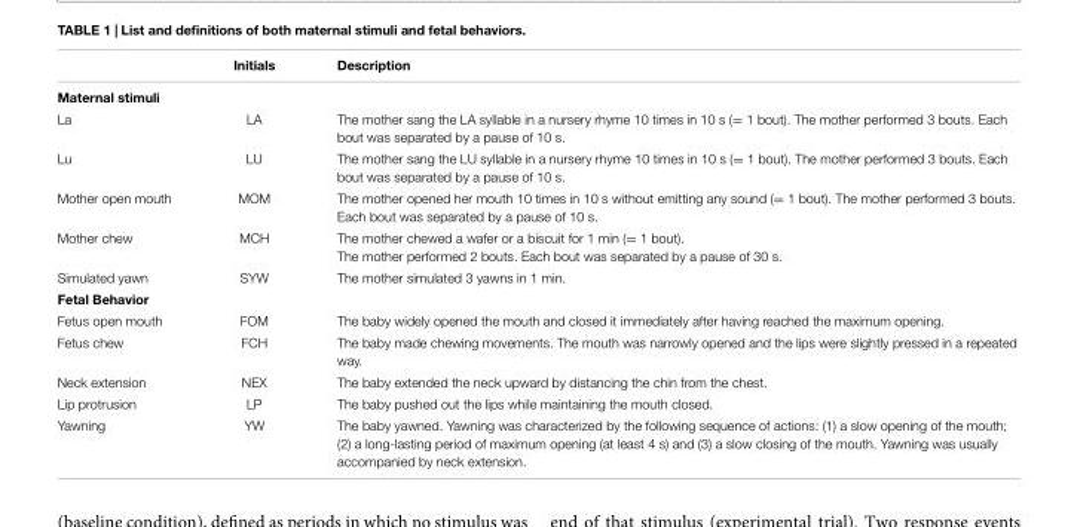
<table><thead><tr><td></td><td>Initials</td><td>Description</td></tr></thead><tbody><tr><td colspan="3">Maternal stimuli</td></tr><tr><td>La</td><td>LA</td><td>The mother sang the LA syllable in a nursery rhyme 10 times in 10 s (= 1 bout). The mother performed 3 bouts. Each bout was separated by a pause of 10 s.</td></tr><tr><td>Lu</td><td>LU</td><td>The mother sang the LU syllable in a nursery rhyme 10 times in 10 s (= 1 bout). The mother performed 3 bouts. Each bout was separated by a pause of 10 s.</td></tr><tr><td>Mother open mouth</td><td>MOM</td><td>The mother opened her mouth 10 times in 10 s without emitting any sound (= 1 bout). The mother performed 3 bouts. Each bout was separated by a pause of 10 s.</td></tr><tr><td>Mother chew</td><td>MCH</td><td>The mother chewed a wafer or a biscuit for 1 min (= 1 bout). The mother performed 2 bouts. Each bout was separated by a pause of 30 s.</td></tr><tr><td>Simulated yawn</td><td>SYW</td><td>The mother simulated 3 yawns in 1 min.</td></tr><tr><td colspan="3">Fetal Behavior</td></tr><tr><td>Fetus open mouth</td><td>FOM</td><td>The baby widely opened the mouth and closed it immediately after having reached the maximum opening.</td></tr><tr><td>Fetus chew</td><td>FCH</td><td>The baby made chewing movements. The mouth was narrowly opened and the lips were slightly pressed in a repeated way.</td></tr><tr><td>Neck extension</td><td>NEX</td><td>The baby extended the neck upward by distancing the chin from the chest.</td></tr><tr><td>Lip protrusion</td><td>LP</td><td>The baby pushed out the lips while maintaining the mouth closed.</td></tr><tr><td>Yawning</td><td>YW</td><td>The baby yawned. Yawning was characterized by the following sequence of actions: (1) a slow opening of the mouth; (2) a long-lasting period of maximum opening (at least 4 s) and (3) a slow closing of the mouth. Yawning was usually accompanied by neck extension.</td></tr></tbody></table>